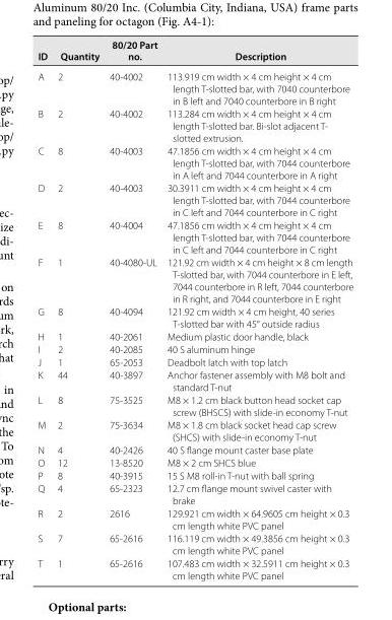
<table><thead><tr><td>ID</td><td>Quantity</td><td>80/20 Part no.</td><td>Description</td></tr></thead><tbody><tr><td>A</td><td>2</td><td>40- 4002</td><td>113.919 cm width × 4 cm height × 4 cm length T- slotted bar, with 7040 counterbore in B left and 7040 counterbore in B right</td></tr><tr><td>B</td><td>2</td><td>40- 4002</td><td>113.284 cm width × 4 cm height × 4 cm length T- slotted bar. Bi- slot adjacent T- slotted extrusion.</td></tr><tr><td>C</td><td>8</td><td>40- 4003</td><td>47.1856 cm width × 4 cm height × 4 cm length T- slotted bar, with 7044 counterbore in A left and 7044 counterbore in A right</td></tr><tr><td>D</td><td>2</td><td>40- 4003</td><td>30.3911 cm width × 4 cm height × 4 cm length T- slotted bar, with 7044 counterbore in C left and 7044 counterbore in C right</td></tr><tr><td>E</td><td>8</td><td>40- 4004</td><td>47.1856 cm width × 4 cm height × 4 cm length T- slotted bar, with 7044 counterbore in C left and 7044 counterbore in C right</td></tr><tr><td>F</td><td>1</td><td>40- 4080- UL</td><td>121.92 cm width × 4 cm height × 8 cm length T- slotted bar, with 7044 counterbore in E left, 7044 counterbore in R left, 7044 counterbore in R right, and 7044 counterbore in E right</td></tr><tr><td>G</td><td>8</td><td>40- 4094</td><td>121.92 cm width × 4 cm height, 40 series T- slotted bar with 45° outside radius</td></tr><tr><td>H</td><td>1</td><td>40- 2061</td><td>Medium plastic door handle, black</td></tr><tr><td>I</td><td>2</td><td>40- 2085</td><td>40 S aluminum hinge</td></tr><tr><td>J</td><td>1</td><td>65- 2053</td><td>Deadbolt latch with top latch</td></tr><tr><td>K</td><td>44</td><td>40- 3897</td><td>Anchor fastener assembly with M8 bolt and standard T- nut</td></tr><tr><td>L</td><td>8</td><td>75- 3525</td><td>M8 × 1.2 cm black button head socket cap screw (BHSCS) with slide- in economy T- nut</td></tr><tr><td>M</td><td>2</td><td>75- 3634</td><td>M8 × 1.8 cm black socket head cap screw (SHCS) with slide- in economy T- nut</td></tr><tr><td>N</td><td>4</td><td>40- 2426</td><td>40 S flange mount caster base plate</td></tr><tr><td>O</td><td>12</td><td>13- 8520</td><td>M8 × 2 cm SHCS blue</td></tr><tr><td>P</td><td>8</td><td>40- 3915</td><td>15 S M8 roll- in T- nut with ball spring</td></tr><tr><td>Q</td><td>4</td><td>65- 2323</td><td>12.7 cm flange mount swivel caster with brake</td></tr><tr><td>R</td><td>2</td><td>2616</td><td>129.921 cm width × 64.9605 cm height × 0.3 cm length white PVC panel</td></tr><tr><td>S</td><td>7</td><td>65- 2616</td><td>116.119 cm width × 49.3856 cm height × 0.3 cm length white PVC panel</td></tr><tr><td>T</td><td>1</td><td>65- 2616</td><td>107.483 cm width × 32.5911 cm height × 0.3 cm length white PVC panel</td></tr></tbody></table>